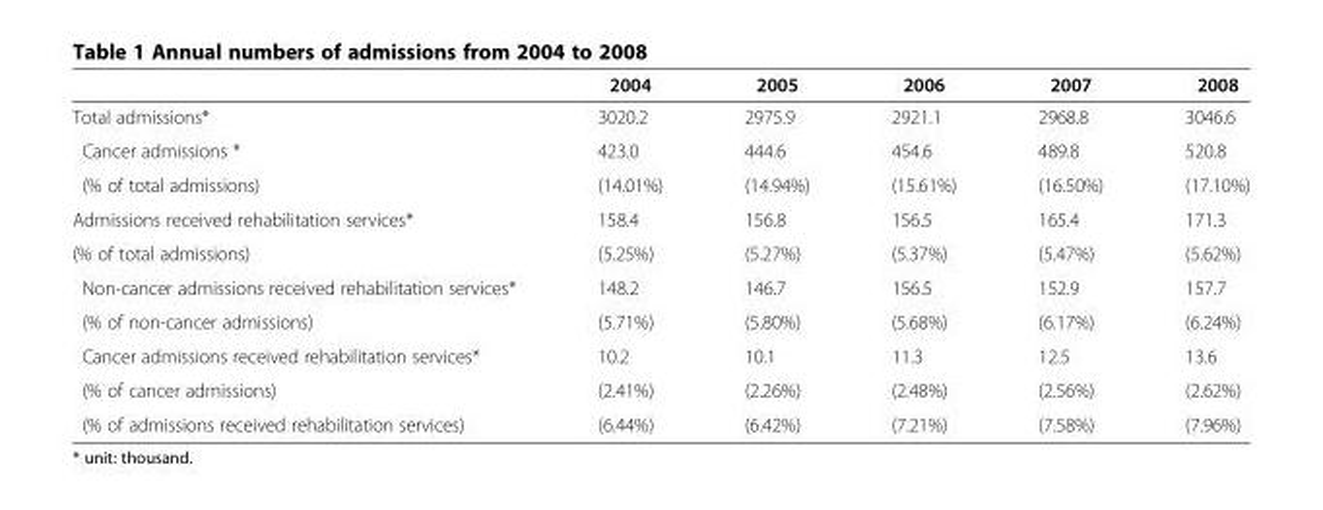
<table><thead><tr><td></td><td>2004</td><td>2005</td><td>2006</td><td>2007</td><td>2008</td></tr></thead><tbody><tr><td>Total admissions*</td><td>3020.2</td><td>2975.9</td><td>2921.1</td><td>2968.8</td><td>3046.6</td></tr><tr><td>Cancer admissions *</td><td>423.0</td><td>444.6</td><td>454.6</td><td>489.8</td><td>520.8</td></tr><tr><td>(% of total admissions)</td><td>(14.01%)</td><td>(14.94%)</td><td>(15.61%)</td><td>(16.50%)</td><td>(17.10%)</td></tr><tr><td>Admissions received rehabilitation services*</td><td>158.4</td><td>156.8</td><td>156.5</td><td>165.4</td><td>171.3</td></tr><tr><td>(% of total admissions)</td><td>(5.25%)</td><td>(5.27%)</td><td>(5.37%)</td><td>(5.47%)</td><td>(5.62%)</td></tr><tr><td>Non-cancer admissions received rehabilitation services*</td><td>148.2</td><td>146.7</td><td>156.5</td><td>152.9</td><td>157.7</td></tr><tr><td>(% of non-cancer admissions)</td><td>(5.71%)</td><td>(5.80%)</td><td>(5.68%)</td><td>(6.17%)</td><td>(6.24%)</td></tr><tr><td>Cancer admissions received rehabilitation services*</td><td>10.2</td><td>10.1</td><td>11.3</td><td>12.5</td><td>13.6</td></tr><tr><td>(% of cancer admissions)</td><td>(2.41%)</td><td>(2.26%)</td><td>(2.48%)</td><td>(2.56%)</td><td>(2.62%)</td></tr><tr><td>(% of admissions received rehabilitation services)</td><td>(6.44%)</td><td>(6.42%)</td><td>(7.21%)</td><td>(7.58%)</td><td>(7.96%)</td></tr></tbody></table>